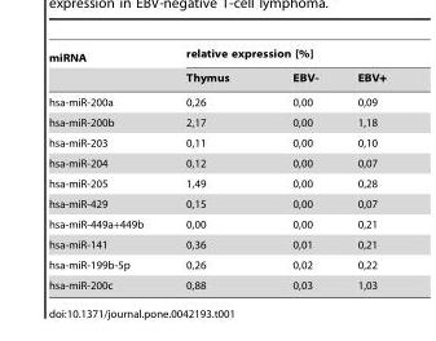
<table><thead><tr><td rowspan="2">miRNA</td><td colspan="3">relative expression [%]</td></tr><tr><td>Thymus</td><td>EBV-</td><td>EBV+</td></tr></thead><tbody><tr><td>hsa-miR-200a</td><td>0,26</td><td>0,00</td><td>0,09</td></tr><tr><td>hsa-miR-200b</td><td>2,17</td><td>0,00</td><td>1,18</td></tr><tr><td>hsa-miR-203</td><td>0,11</td><td>0,00</td><td>0,10</td></tr><tr><td>hsa-miR-204</td><td>0,12</td><td>0,00</td><td>0,07</td></tr><tr><td>hsa-miR-205</td><td>1,49</td><td>0,00</td><td>0,28</td></tr><tr><td>hsa-miR-429</td><td>0,15</td><td>0,00</td><td>0,07</td></tr><tr><td>hsa-miR-449a+449b</td><td>0,00</td><td>0,00</td><td>0,21</td></tr><tr><td>hsa-miR-141</td><td>0,36</td><td>0,01</td><td>0,21</td></tr><tr><td>hsa-miR-199b-5p</td><td>0,26</td><td>0,02</td><td>0,22</td></tr><tr><td>hsa-miR-200c</td><td>0,88</td><td>0,03</td><td>1,03</td></tr></tbody></table>